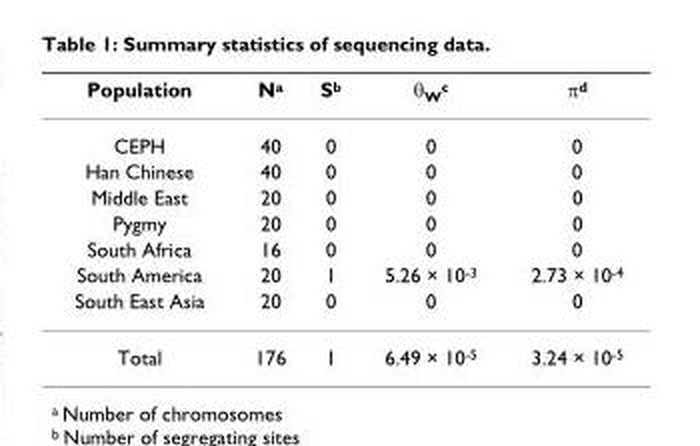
<table><thead><tr><td>Population</td><td>N<sup>a</sup></td><td>S<sup>b</sup></td><td>θ<sub>W</sub><sup>c</sup></td><td>π<sup>d</sup></td></tr></thead><tbody><tr><td>CEPH</td><td>40</td><td>0</td><td>0</td><td>0</td></tr><tr><td>Han Chinese</td><td>40</td><td>0</td><td>0</td><td>0</td></tr><tr><td>Middle East</td><td>20</td><td>0</td><td>0</td><td>0</td></tr><tr><td>Pygmy</td><td>20</td><td>0</td><td>0</td><td>0</td></tr><tr><td>South Africa</td><td>16</td><td>0</td><td>0</td><td>0</td></tr><tr><td>South America</td><td>20</td><td>1</td><td>5.26 × 10<sup>-3</sup></td><td>2.73 × 10<sup>-4</sup></td></tr><tr><td>South East Asia</td><td>20</td><td>0</td><td>0</td><td>0</td></tr><tr><td>Total</td><td>176</td><td>1</td><td>6.49 × 10<sup>-5</sup></td><td>3.24 × 10<sup>-5</sup></td></tr></tbody></table>